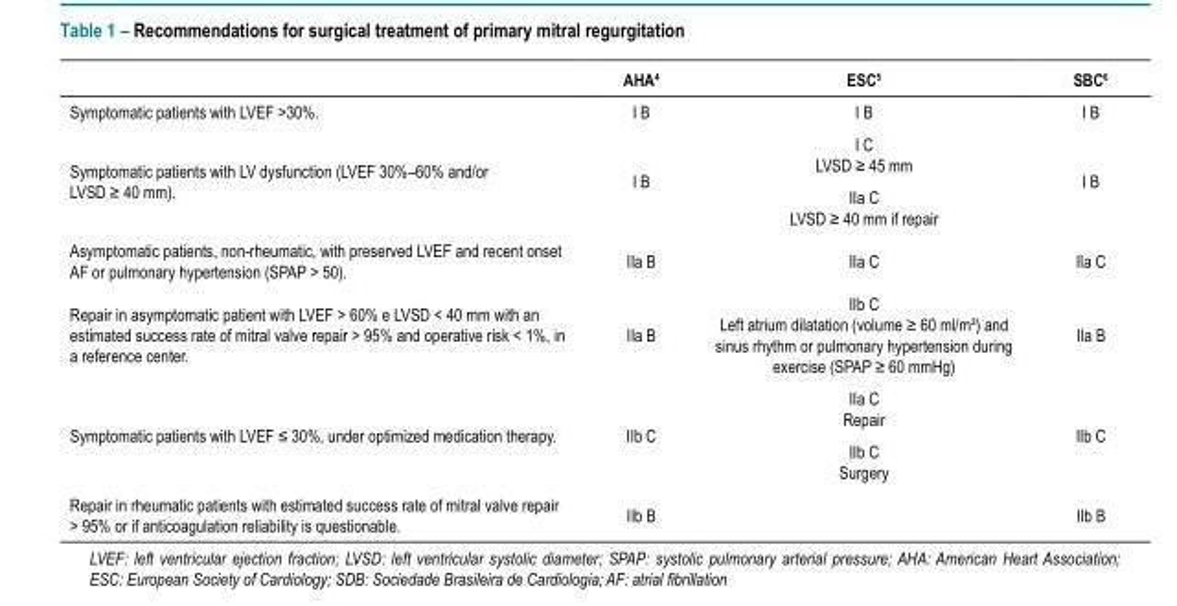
<table><thead><tr><td></td><td>AHA<sup>4</sup></td><td>ESC<sup>5</sup></td><td>SBC<sup>6</sup></td></tr></thead><tbody><tr><td>Symptomatic patients with LVEF &gt;30%.</td><td>I B</td><td>I B</td><td>I B</td></tr><tr><td rowspan="2">Symptomatic patients with LV dysfunction (LVEF 30%–60% and/or LVSD ≥ 40 mm).</td><td rowspan="2">I B</td><td>I C LVSD ≥ 45 mm</td><td rowspan="2">I B</td></tr><tr><td>IIa C LVSD ≥ 40 mm if repair</td></tr><tr><td>Asymptomatic patients, non-rheumatic, with preserved LVEF and recent onset AF or pulmonary hypertension (SPAP &gt; 50).</td><td>IIa B</td><td>IIa C</td><td>IIa C</td></tr><tr><td>Repair in asymptomatic patient with LVEF &gt; 60% e LVSD &lt; 40 mm with an estimated success rate of mitral valve repair &gt; 95% and operative risk &lt; 1%, in a reference center.</td><td>IIa B</td><td>IIb C Left atrium dilatation (volume ≥ 60 ml/m²) and sinus rhythm or pulmonary hypertension during exercise (SPAP ≥ 60 mmHg)</td><td>IIa B</td></tr><tr><td rowspan="2">Symptomatic patients with LVEF ≤ 30%, under optimized medication therapy.</td><td rowspan="2">IIb C</td><td>IIa C Repair</td><td rowspan="2">IIb C</td></tr><tr><td>IIb C Surgery</td></tr><tr><td>Repair in rheumatic patients with estimated success rate of mitral valve repair &gt; 95% or if anticoagulation reliability is questionable.</td><td>IIb B</td><td></td><td>IIb B</td></tr></tbody></table>